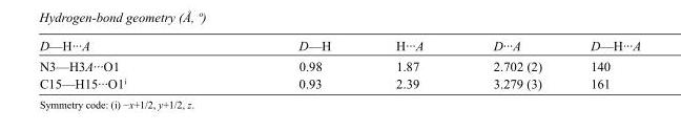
<table><tbody><tr><td>D—H···A</td><td>D—H</td><td>H···A</td><td>D···A</td><td>D—H···A</td></tr><tr><td>N3—H3A···O1</td><td>0.98</td><td>1.87</td><td>2.702 (2)</td><td>140</td></tr><tr><td>C15—H15···O1<sup>i</sup></td><td>0.93</td><td>2.39</td><td>3.279 (3)</td><td>161</td></tr></tbody></table>